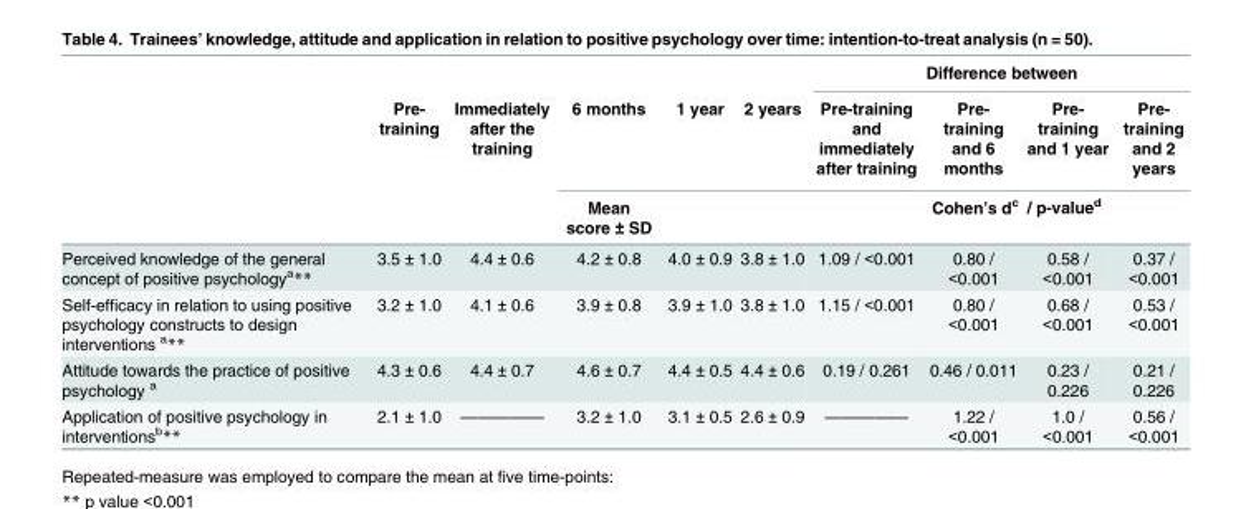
<table><thead><tr><td rowspan="3"></td><td rowspan="3">Pre- training</td><td rowspan="3">Immediately after the training</td><td rowspan="3">6 months Mean score ± SD</td><td rowspan="3">1 year</td><td rowspan="3">2 years</td><td colspan="4">Difference between</td></tr><tr><td rowspan="2">Pre-training and immediately after training</td><td rowspan="2">Pre- training and 6 months Cohen’s d<sup>c</sup></td><td rowspan="2">Pre- training and 1 year / p-value<sup>d</sup></td><td rowspan="2">Pre- training and 2 years</td></tr><tr></tr></thead><tbody><tr><td>Perceived knowledge of the general concept of positive psychology<sup>a</sup>**</td><td>3.5 ± 1.0</td><td>4.4 ± 0.6</td><td>4.2 ± 0.8</td><td>4.0 ± 0.9</td><td>3.8 ± 1.0</td><td>1.09 / &lt;0.001</td><td>0.80 / &lt;0.001</td><td>0.58 / &lt;0.001</td><td>0.37 / &lt;0.001</td></tr><tr><td>Self-efficacy in relation to using positive psychology constructs to design interventions <sup>a</sup>**</td><td>3.2 ± 1.0</td><td>4.1 ± 0.6</td><td>3.9 ± 0.8</td><td>3.9 ± 1.0</td><td>3.8 ± 1.0</td><td>1.15 / &lt;0.001</td><td>0.80 / &lt;0.001</td><td>0.68 / &lt;0.001</td><td>0.53 / &lt;0.001</td></tr><tr><td>Attitude towards the practice of positive psychology <sup>a</sup></td><td>4.3 ± 0.6</td><td>4.4 ± 0.7</td><td>4.6 ± 0.7</td><td>4.4 ± 0.5</td><td>4.4 ± 0.6</td><td>0.19 / 0.261</td><td>0.46 / 0.011</td><td>0.23 / 0.226</td><td>0.21 / 0.226</td></tr><tr><td>Application of positive psychology in interventions<sup>b</sup>**</td><td>2.1 ± 1.0</td><td>—————</td><td>3.2 ± 1.0</td><td>3.1 ± 0.5</td><td>2.6 ± 0.9</td><td>—————</td><td>1.22 / &lt;0.001</td><td>1.0 / &lt;0.001</td><td>0.56 / &lt;0.001</td></tr></tbody></table>